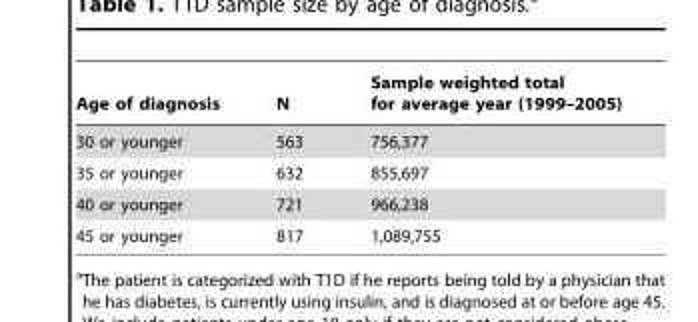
<table><thead><tr><td>Age of diagnosis</td><td>N</td><td>Sample weighted total for average year (1999–2005)</td></tr></thead><tbody><tr><td>30 or younger</td><td>563</td><td>756,377</td></tr><tr><td>35 or younger</td><td>632</td><td>855,697</td></tr><tr><td>40 or younger</td><td>721</td><td>966,238</td></tr><tr><td>45 or younger</td><td>817</td><td>1,089,755</td></tr></tbody></table>